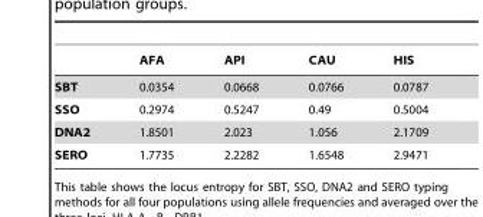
<table><thead><tr><td></td><td>AFA</td><td>API</td><td>CAU</td><td>HIS</td></tr></thead><tbody><tr><td>SBT</td><td>0.0354</td><td>0.0668</td><td>0.0766</td><td>0.0787</td></tr><tr><td>SSO</td><td>0.2974</td><td>0.5247</td><td>0.49</td><td>0.5004</td></tr><tr><td>DNA2</td><td>1.8501</td><td>2.023</td><td>1.056</td><td>2.1709</td></tr><tr><td>SERO</td><td>1.7735</td><td>2.2282</td><td>1.6548</td><td>2.9471</td></tr></tbody></table>